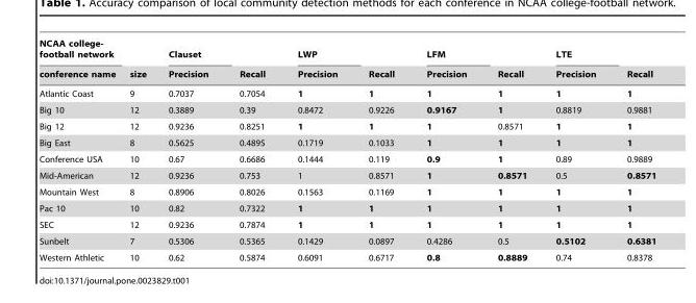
<table><thead><tr><td rowspan="2">NCAA college- football network conference name</td><td rowspan="2">size</td><td rowspan="2">Clauset Precision</td><td rowspan="2">Recall</td><td rowspan="2">LWP Precision</td><td rowspan="2">Recall</td><td rowspan="2">LFM Precision</td><td rowspan="2">Recall</td><td rowspan="2">LTE Precision</td><td rowspan="2">Recall</td></tr><tr></tr></thead><tbody><tr><td>Atlantic Coast</td><td>9</td><td>0.7037</td><td>0.7054</td><td>1</td><td>1</td><td>1</td><td>1</td><td>1</td><td>1</td></tr><tr><td>Big 10</td><td>12</td><td>0.3889</td><td>0.39</td><td>0.8472</td><td>0.9226</td><td>0.9167</td><td>1</td><td>0.8819</td><td>0.9881</td></tr><tr><td>Big 12</td><td>12</td><td>0.9236</td><td>0.8251</td><td>1</td><td>1</td><td>1</td><td>0.8571</td><td>1</td><td>1</td></tr><tr><td>Big East</td><td>8</td><td>0.5625</td><td>0.4895</td><td>0.1719</td><td>0.1033</td><td>1</td><td>1</td><td>1</td><td>1</td></tr><tr><td>Conference USA</td><td>10</td><td>0.67</td><td>0.6686</td><td>0.1444</td><td>0.119</td><td>0.9</td><td>1</td><td>0.89</td><td>0.9889</td></tr><tr><td>Mid-American</td><td>12</td><td>0.9236</td><td>0.753</td><td>1</td><td>0.8571</td><td>1</td><td>0.8571</td><td>0.5</td><td>0.8571</td></tr><tr><td>Mountain West</td><td>8</td><td>0.8906</td><td>0.8026</td><td>0.1563</td><td>0.1169</td><td>1</td><td>1</td><td>1</td><td>1</td></tr><tr><td>Pac 10</td><td>10</td><td>0.82</td><td>0.7322</td><td>1</td><td>1</td><td>1</td><td>1</td><td>1</td><td>1</td></tr><tr><td>SEC</td><td>12</td><td>0.9236</td><td>0.7874</td><td>1</td><td>1</td><td>1</td><td>1</td><td>1</td><td>1</td></tr><tr><td>Sunbelt</td><td>7</td><td>0.5306</td><td>0.5365</td><td>0.1429</td><td>0.0897</td><td>0.4286</td><td>0.5</td><td>0.5102</td><td>0.6381</td></tr><tr><td>Western Athletic</td><td>10</td><td>0.62</td><td>0.5874</td><td>0.6091</td><td>0.6717</td><td>0.8</td><td>0.8889</td><td>0.74</td><td>0.8378</td></tr></tbody></table>